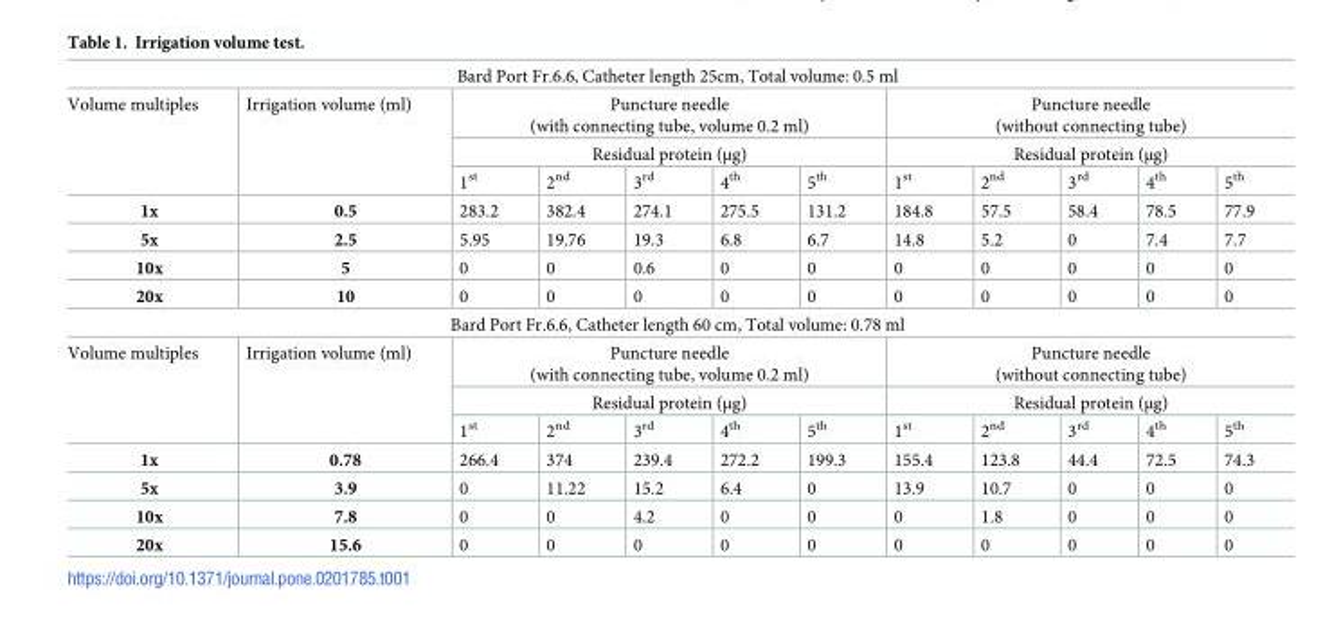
<table><tbody><tr><td colspan="12">Bard Port Fr.6.6, Catheter length 25cm, Total volume: 0.5 ml</td></tr><tr><td rowspan="3">Volume multiples</td><td rowspan="3">Irrigation volume (ml)</td><td colspan="5">Puncture needle (with connecting tube, volume 0.2 ml)</td><td colspan="5">Puncture needle (without connecting tube)</td></tr><tr><td colspan="5">Residual protein (μg)</td><td colspan="5">Residual protein (μg)</td></tr><tr><td>1<sup>st</sup></td><td>2<sup>nd</sup></td><td>3<sup>rd</sup></td><td>4<sup>th</sup></td><td>5<sup>th</sup></td><td>1<sup>st</sup></td><td>2<sup>nd</sup></td><td>3<sup>rd</sup></td><td>4<sup>th</sup></td><td>5<sup>th</sup></td></tr><tr><td>1x</td><td>0.5</td><td>283.2</td><td>382.4</td><td>274.1</td><td>275.5</td><td>131.2</td><td>184.8</td><td>57.5</td><td>58.4</td><td>78.5</td><td>77.9</td></tr><tr><td>5x</td><td>2.5</td><td>5.95</td><td>19.76</td><td>19.3</td><td>6.8</td><td>6.7</td><td>14.8</td><td>5.2</td><td>0</td><td>7.4</td><td>7.7</td></tr><tr><td>10x</td><td>5</td><td>0</td><td>0</td><td>0.6</td><td>0</td><td>0</td><td>0</td><td>0</td><td>0</td><td>0</td><td>0</td></tr><tr><td>20x</td><td>10</td><td>0</td><td>0</td><td>0</td><td>0</td><td>0</td><td>0</td><td>0</td><td>0</td><td>0</td><td>0</td></tr><tr><td colspan="12">Bard Port Fr.6.6, Catheter length 60 cm, Total volume: 0.78 ml</td></tr><tr><td rowspan="3">Volume multiples</td><td rowspan="3">Irrigation volume (ml)</td><td colspan="5">Puncture needle (with connecting tube, volume 0.2 ml)</td><td colspan="5">Puncture needle (without connecting tube)</td></tr><tr><td colspan="5">Residual protein (μg)</td><td colspan="5">Residual protein (μg)</td></tr><tr><td>1<sup>st</sup></td><td>2<sup>nd</sup></td><td>3<sup>rd</sup></td><td>4<sup>th</sup></td><td>5<sup>th</sup></td><td>1<sup>st</sup></td><td>2<sup>nd</sup></td><td>3<sup>rd</sup></td><td>4<sup>th</sup></td><td>5<sup>th</sup></td></tr><tr><td>1x</td><td>0.78</td><td>266.4</td><td>374</td><td>239.4</td><td>272.2</td><td>199.3</td><td>155.4</td><td>123.8</td><td>44.4</td><td>72.5</td><td>74.3</td></tr><tr><td>5x</td><td>3.9</td><td>0</td><td>11.22</td><td>15.2</td><td>6.4</td><td>0</td><td>13.9</td><td>10.7</td><td>0</td><td>0</td><td>0</td></tr><tr><td>10x</td><td>7.8</td><td>0</td><td>0</td><td>4.2</td><td>0</td><td>0</td><td>0</td><td>1.8</td><td>0</td><td>0</td><td>0</td></tr><tr><td>20x</td><td>15.6</td><td>0</td><td>0</td><td>0</td><td>0</td><td>0</td><td>0</td><td>0</td><td>0</td><td>0</td><td>0</td></tr></tbody></table>